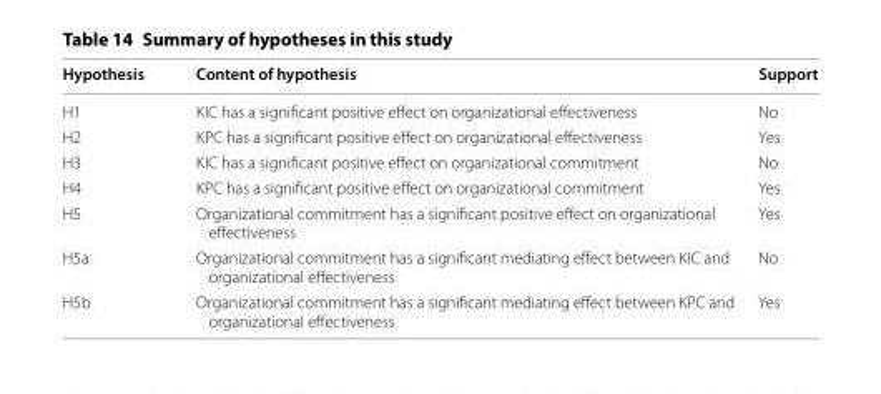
<table><thead><tr><td>Hypothesis</td><td>Content of hypothesis</td><td>Support</td></tr></thead><tbody><tr><td>H1</td><td>KIC has a significant positive effect on organizational effectiveness</td><td>No</td></tr><tr><td>H2</td><td>KPC has a significant positive effect on organizational effectiveness</td><td>Yes</td></tr><tr><td>H3</td><td>KIC has a significant positive effect on organizational commitment</td><td>No</td></tr><tr><td>H4</td><td>KPC has a significant positive effect on organizational commitment</td><td>Yes</td></tr><tr><td>H5</td><td>Organizational commitment has a significant positive effect on organizational effectiveness</td><td>Yes</td></tr><tr><td>H5a</td><td>Organizational commitment has a significant mediating effect between KIC and organizational effectiveness</td><td>No</td></tr><tr><td>H5b</td><td>Organizational commitment has a significant mediating effect between KPC and organizational effectiveness</td><td>Yes</td></tr></tbody></table>